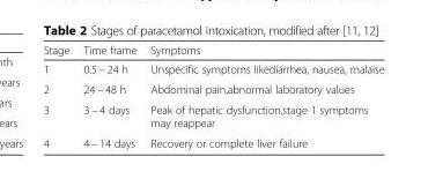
<table><thead><tr><td>Stage</td><td>Time frame</td><td>Symptoms</td></tr></thead><tbody><tr><td>1</td><td>0.5 – 24 h</td><td>Unspecific symptoms likediarrhea, nausea, malaise</td></tr><tr><td>2</td><td>24 – 48 h</td><td>Abdominal pain,abnormal laboratory values</td></tr><tr><td>3</td><td>3 – 4 days</td><td>Peak of hepatic dysfunction,stage 1 symptoms may reappear</td></tr><tr><td>4</td><td>4 – 14 days</td><td>Recovery or complete liver failure</td></tr></tbody></table>